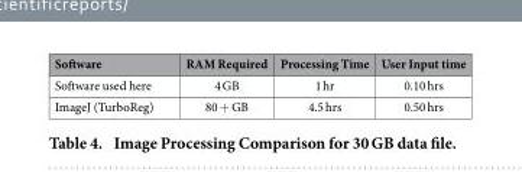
<table><thead><tr><td>Software</td><td>RAM Required</td><td>Processing Time</td><td>User Input time</td></tr></thead><tbody><tr><td>Software used here</td><td>4 GB</td><td>1 hr</td><td>0.10 hrs</td></tr><tr><td>ImageJ (TurboReg)</td><td>80 + GB</td><td>4.5 hrs</td><td>0.50 hrs</td></tr></tbody></table>